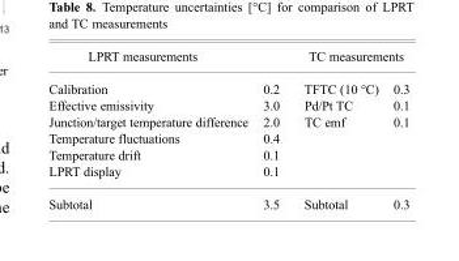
<table><thead><tr><td rowspan="2">LPRT measurements Calibration</td><td rowspan="2">0.2</td><td colspan="2">TC measurements</td></tr><tr><td>TFTC (10 °C)</td><td>0.3</td></tr></thead><tbody><tr><td>Effective emissivity</td><td>3.0</td><td>Pd/Pt TC</td><td>0.1</td></tr><tr><td>Junction/target temperature difference</td><td>2.0</td><td>TC emf</td><td>0.1</td></tr><tr><td>Temperature fluctuations</td><td>0.4</td><td></td><td></td></tr><tr><td>Temperature drift</td><td>0.1</td><td></td><td></td></tr><tr><td>LPRT display</td><td>0.1</td><td></td><td></td></tr><tr><td>Subtotal</td><td>3.5</td><td>Subtotal</td><td>0.3</td></tr></tbody></table>